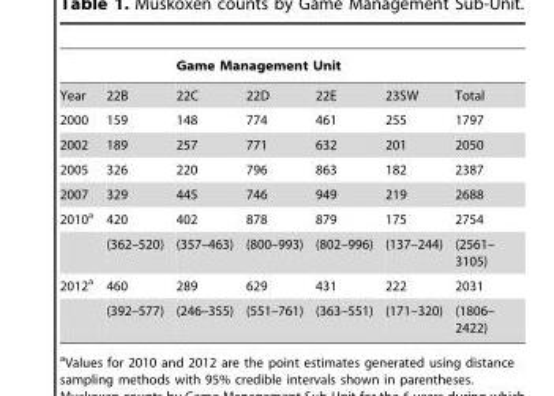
<table><thead><tr><td rowspan="2">Year</td><td rowspan="2">22B</td><td colspan="3">Game Management Unit</td><td rowspan="2">23SW</td><td rowspan="2">Total</td></tr><tr><td>22C</td><td>22D</td><td>22E</td></tr></thead><tbody><tr><td>2000</td><td>159</td><td>148</td><td>774</td><td>461</td><td>255</td><td>1797</td></tr><tr><td>2002</td><td>189</td><td>257</td><td>771</td><td>632</td><td>201</td><td>2050</td></tr><tr><td>2005</td><td>326</td><td>220</td><td>796</td><td>863</td><td>182</td><td>2387</td></tr><tr><td>2007</td><td>329</td><td>445</td><td>746</td><td>949</td><td>219</td><td>2688</td></tr><tr><td rowspan="2">2010<sup>a</sup></td><td>420</td><td>402</td><td>878</td><td>879</td><td>175</td><td>2754</td></tr><tr><td>(362–520)</td><td>(357–463)</td><td>(800–993)</td><td>(802–996)</td><td>(137–244)</td><td>(2561– 3105)</td></tr><tr><td rowspan="2">2012<sup>a</sup></td><td>460</td><td>289</td><td>629</td><td>431</td><td>222</td><td>2031</td></tr><tr><td>(392–577)</td><td>(246–355)</td><td>(551–761)</td><td>(363–551)</td><td>(171–320)</td><td>(1806– 2422)</td></tr></tbody></table>